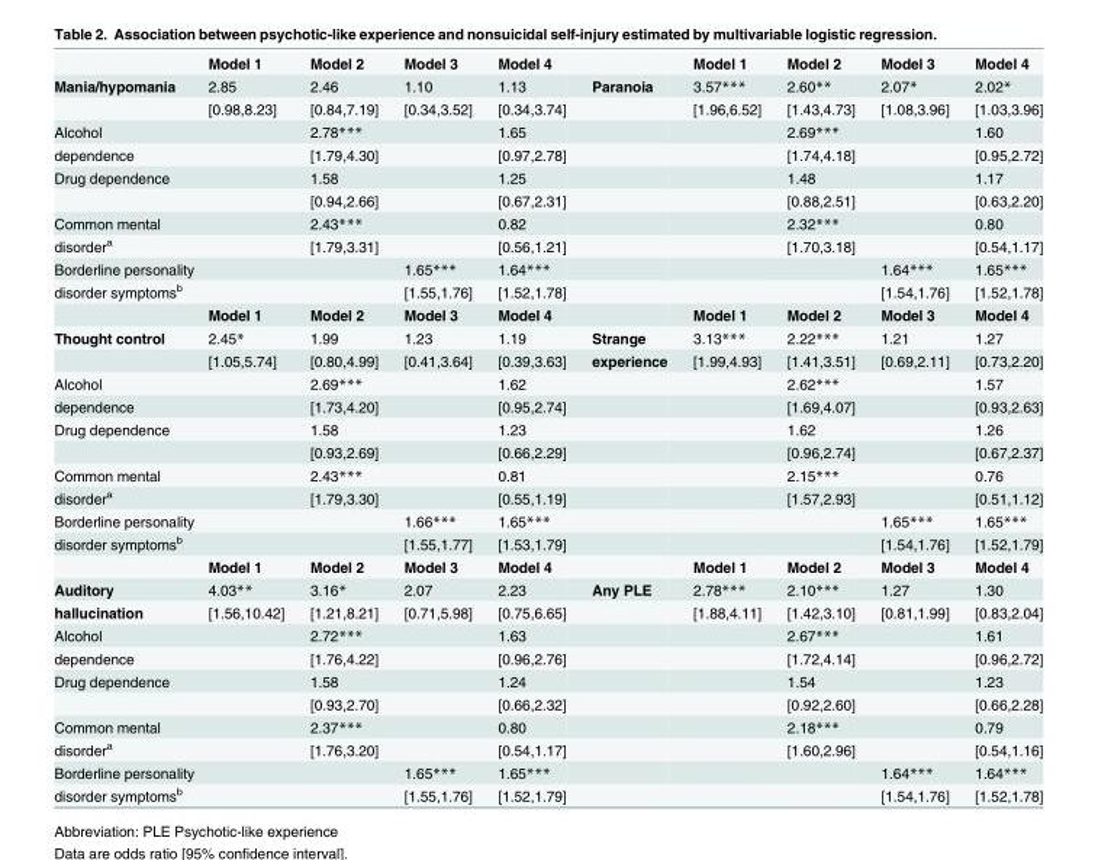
<table><thead><tr><td></td><td>Model 1</td><td>Model 2</td><td>Model 3</td><td>Model 4</td><td></td><td>Model 1</td><td>Model 2</td><td>Model 3</td><td>Model 4</td></tr></thead><tbody><tr><td rowspan="2">Mania/hypomania</td><td>2.85</td><td>2.46</td><td>1.10</td><td>1.13</td><td>Paranoia</td><td>3.57***</td><td>2.60**</td><td>2.07*</td><td>2.02*</td></tr><tr><td>[0.98,8.23]</td><td>[0.84,7.19]</td><td>[0.34,3.52]</td><td>[0.34,3.74]</td><td></td><td>[1.96,6.52]</td><td>[1.43,4.73]</td><td>[1.08,3.96]</td><td>[1.03,3.96]</td></tr><tr><td>Alcohol</td><td></td><td>2.78***</td><td></td><td>1.65</td><td></td><td></td><td>2.69***</td><td></td><td>1.60</td></tr><tr><td>dependence</td><td></td><td>[1.79,4.30]</td><td></td><td>[0.97,2.78]</td><td></td><td></td><td>[1.74,4.18]</td><td></td><td>[0.95,2.72]</td></tr><tr><td rowspan="2">Drug dependence</td><td></td><td>1.58</td><td></td><td>1.25</td><td></td><td></td><td>1.48</td><td></td><td>1.17</td></tr><tr><td></td><td>[0.94,2.66]</td><td></td><td>[0.67,2.31]</td><td></td><td></td><td>[0.88,2.51]</td><td></td><td>[0.63,2.20]</td></tr><tr><td>Common mental</td><td></td><td>2.43***</td><td></td><td>0.82</td><td></td><td></td><td>2.32***</td><td></td><td>0.80</td></tr><tr><td>disorder<sup>a</sup></td><td></td><td>[1.79,3.31]</td><td></td><td>[0.56,1.21]</td><td></td><td></td><td>[1.70,3.18]</td><td></td><td>[0.54,1.17]</td></tr><tr><td colspan="2">Borderline personality</td><td></td><td>1.65***</td><td>1.64***</td><td></td><td></td><td></td><td>1.64***</td><td>1.65***</td></tr><tr><td rowspan="2">disorder symptoms<sup>b</sup></td><td></td><td></td><td>[1.55,1.76]</td><td>[1.52,1.78]</td><td></td><td></td><td></td><td>[1.54,1.76]</td><td>[1.52,1.78]</td></tr><tr><td>Model 1</td><td>Model 2</td><td>Model 3</td><td>Model 4</td><td></td><td>Model 1</td><td>Model 2</td><td>Model 3</td><td>Model 4</td></tr><tr><td rowspan="2">Thought control</td><td>2.45*</td><td>1.99</td><td>1.23</td><td>1.19</td><td>Strange</td><td>3.13***</td><td>2.22***</td><td>1.21</td><td>1.27</td></tr><tr><td>[1.05,5.74]</td><td>[0.80,4.99]</td><td>[0.41,3.64]</td><td>[0.39,3.63]</td><td>experience</td><td>[1.99,4.93]</td><td>[1.41,3.51]</td><td>[0.69,2.11]</td><td>[0.73,2.20]</td></tr><tr><td>Alcohol</td><td></td><td>2.69***</td><td></td><td>1.62</td><td></td><td></td><td>2.62***</td><td></td><td>1.57</td></tr><tr><td>dependence</td><td></td><td>[1.73,4.20]</td><td></td><td>[0.95,2.74]</td><td></td><td></td><td>[1.69,4.07]</td><td></td><td>[0.93,2.63]</td></tr><tr><td rowspan="2">Drug dependence</td><td></td><td>1.58</td><td></td><td>1.23</td><td></td><td></td><td>1.62</td><td></td><td>1.26</td></tr><tr><td></td><td>[0.93,2.69]</td><td></td><td>[0.66,2.29]</td><td></td><td></td><td>[0.96,2.74]</td><td></td><td>[0.67,2.37]</td></tr><tr><td>Common mental</td><td></td><td>2.43***</td><td></td><td>0.81</td><td></td><td></td><td>2.15***</td><td></td><td>0.76</td></tr><tr><td>disorder<sup>a</sup></td><td></td><td>[1.79,3.30]</td><td></td><td>[0.55,1.19]</td><td></td><td></td><td>[1.57,2.93]</td><td></td><td>[0.51,1.12]</td></tr><tr><td colspan="2">Borderline personality</td><td></td><td>1.66***</td><td>1.65***</td><td></td><td></td><td></td><td>1.65***</td><td>1.65***</td></tr><tr><td rowspan="2">disorder symptoms<sup>b</sup></td><td></td><td></td><td>[1.55,1.77]</td><td>[1.53,1.79]</td><td></td><td></td><td></td><td>[1.54,1.76]</td><td>[1.52,1.79]</td></tr><tr><td>Model 1</td><td>Model 2</td><td>Model 3</td><td>Model 4</td><td></td><td>Model 1</td><td>Model 2</td><td>Model 3</td><td>Model 4</td></tr><tr><td>Auditory</td><td>4.03**</td><td>3.16*</td><td>2.07</td><td>2.23</td><td>Any PLE</td><td>2.78***</td><td>2.10***</td><td>1.27</td><td>1.30</td></tr><tr><td>hallucination</td><td>[1.56,10.42]</td><td>[1.21,8.21]</td><td>[0.71,5.98]</td><td>[0.75,6.65]</td><td></td><td>[1.88,4.11]</td><td>[1.42,3.10]</td><td>[0.81,1.99]</td><td>[0.83,2.04]</td></tr><tr><td>Alcohol</td><td></td><td>2.72***</td><td></td><td>1.63</td><td></td><td></td><td>2.67***</td><td></td><td>1.61</td></tr><tr><td>dependence</td><td></td><td>[1.76,4.22]</td><td></td><td>[0.96,2.76]</td><td></td><td></td><td>[1.72,4.14]</td><td></td><td>[0.96,2.72]</td></tr><tr><td rowspan="2">Drug dependence</td><td></td><td>1.58</td><td></td><td>1.24</td><td></td><td></td><td>1.54</td><td></td><td>1.23</td></tr><tr><td></td><td>[0.93,2.70]</td><td></td><td>[0.66,2.32]</td><td></td><td></td><td>[0.92,2.60]</td><td></td><td>[0.66,2.28]</td></tr><tr><td>Common mental</td><td></td><td>2.37***</td><td></td><td>0.80</td><td></td><td></td><td>2.18***</td><td></td><td>0.79</td></tr><tr><td>disorder<sup>a</sup></td><td></td><td>[1.76,3.20]</td><td></td><td>[0.54,1.17]</td><td></td><td></td><td>[1.60,2.96]</td><td></td><td>[0.54,1.16]</td></tr><tr><td colspan="2">Borderline personality</td><td></td><td>1.65***</td><td>1.65***</td><td></td><td></td><td></td><td>1.64***</td><td>1.64***</td></tr><tr><td>disorder symptoms<sup>b</sup></td><td></td><td></td><td>[1.55,1.76]</td><td>[1.52,1.79]</td><td></td><td></td><td></td><td>[1.54,1.76]</td><td>[1.52,1.78]</td></tr></tbody></table>